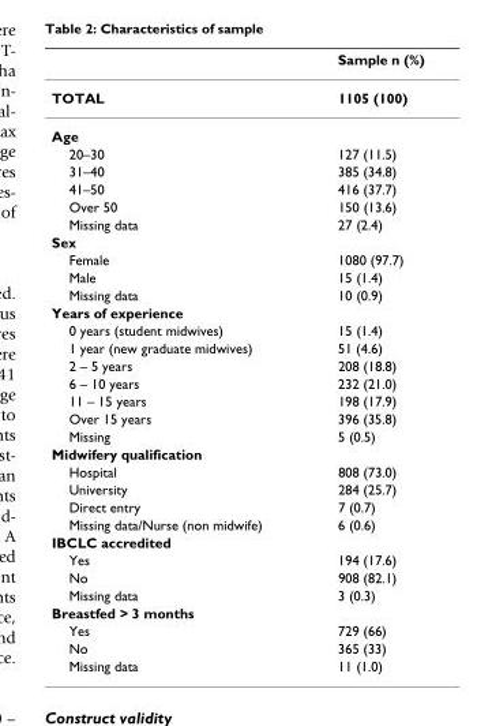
<table><thead><tr><td></td><td>Sample n (%)</td></tr></thead><tbody><tr><td>TOTAL</td><td>1105 (100)</td></tr><tr><td colspan="2">Age</td></tr><tr><td>20–30</td><td>127 (11.5)</td></tr><tr><td>31–40</td><td>385 (34.8)</td></tr><tr><td>41–50</td><td>416 (37.7)</td></tr><tr><td>Over 50</td><td>150 (13.6)</td></tr><tr><td>Missing data</td><td>27 (2.4)</td></tr><tr><td colspan="2">Sex</td></tr><tr><td>Female</td><td>1080 (97.7)</td></tr><tr><td>Male</td><td>15 (1.4)</td></tr><tr><td>Missing data</td><td>10 (0.9)</td></tr><tr><td colspan="2">Years of experience</td></tr><tr><td>0 years (student midwives)</td><td>15 (1.4)</td></tr><tr><td>1 year (new graduate midwives)</td><td>51 (4.6)</td></tr><tr><td>2 – 5 years</td><td>208 (18.8)</td></tr><tr><td>6 – 10 years</td><td>232 (21.0)</td></tr><tr><td>11 – 15 years</td><td>198 (17.9)</td></tr><tr><td>Over 15 years</td><td>396 (35.8)</td></tr><tr><td>Missing</td><td>5 (0.5)</td></tr><tr><td colspan="2">Midwifery qualification</td></tr><tr><td>Hospital</td><td>808 (73.0)</td></tr><tr><td>University</td><td>284 (25.7)</td></tr><tr><td>Direct entry</td><td>7 (0.7)</td></tr><tr><td>Missing data/Nurse (non midwife)</td><td>6 (0.6)</td></tr><tr><td colspan="2">IBCLC accredited</td></tr><tr><td>Yes</td><td>194 (17.6)</td></tr><tr><td>No</td><td>908 (82.1)</td></tr><tr><td>Missing data</td><td>3 (0.3)</td></tr><tr><td colspan="2">Breastfed &gt; 3 months</td></tr><tr><td>Yes</td><td>729 (66)</td></tr><tr><td>No</td><td>365 (33)</td></tr><tr><td>Missing data</td><td>11 (1.0)</td></tr></tbody></table>